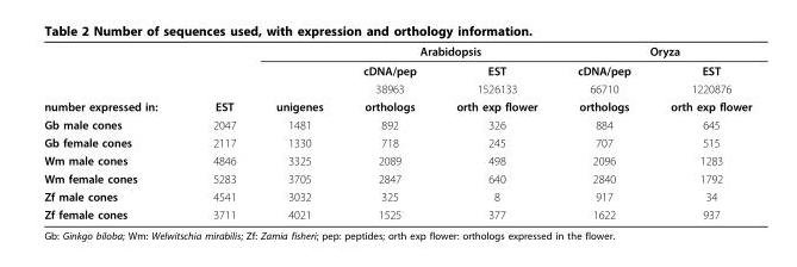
<table><thead><tr><td rowspan="2"></td><td rowspan="2"></td><td rowspan="2"></td><td colspan="2">Arabidopsis</td><td colspan="2">Oryza</td></tr><tr><td>cDNA/pep</td><td>EST</td><td>cDNA/pep</td><td>EST</td></tr></thead><tbody><tr><td></td><td></td><td></td><td>38963</td><td>1526133</td><td>66710</td><td>1220876</td></tr><tr><td>number expressed in:</td><td>EST</td><td>unigenes</td><td>orthologs</td><td>orth exp flower</td><td>orthologs</td><td>orth exp flower</td></tr><tr><td>Gb male cones</td><td>2047</td><td>1481</td><td>892</td><td>326</td><td>884</td><td>645</td></tr><tr><td>Gb female cones</td><td>2117</td><td>1330</td><td>718</td><td>245</td><td>707</td><td>515</td></tr><tr><td>Wm male cones</td><td>4846</td><td>3325</td><td>2089</td><td>498</td><td>2096</td><td>1283</td></tr><tr><td>Wm female cones</td><td>5283</td><td>3705</td><td>2847</td><td>640</td><td>2840</td><td>1792</td></tr><tr><td>Zf male cones</td><td>4541</td><td>3032</td><td>325</td><td>8</td><td>917</td><td>34</td></tr><tr><td>Zf female cones</td><td>3711</td><td>4021</td><td>1525</td><td>377</td><td>1622</td><td>937</td></tr></tbody></table>